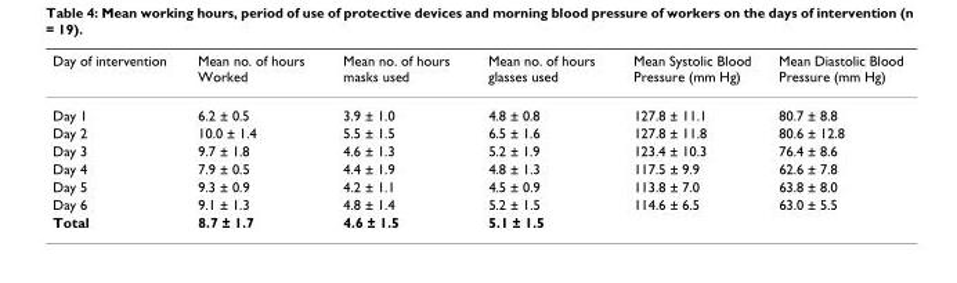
<table><thead><tr><td>Day of intervention</td><td>Mean no. of hours Worked</td><td>Mean no. of hours masks used</td><td>Mean no. of hours glasses used</td><td>Mean Systolic Blood Pressure (mm Hg)</td><td>Mean Diastolic Blood Pressure (mm Hg)</td></tr></thead><tbody><tr><td>Day 1</td><td>6.2 ± 0.5</td><td>3.9 ± 1.0</td><td>4.8 ± 0.8</td><td>127.8 ± 11.1</td><td>80.7 ± 8.8</td></tr><tr><td>Day 2</td><td>10.0 ± 1.4</td><td>5.5 ± 1.5</td><td>6.5 ± 1.6</td><td>127.8 ± 11.8</td><td>80.6 ± 12.8</td></tr><tr><td>Day 3</td><td>9.7 ± 1.8</td><td>4.6 ± 1.3</td><td>5.2 ± 1.9</td><td>123.4 ± 10.3</td><td>76.4 ± 8.6</td></tr><tr><td>Day 4</td><td>7.9 ± 0.5</td><td>4.4 ± 1.9</td><td>4.8 ± 1.3</td><td>117.5 ± 9.9</td><td>62.6 ± 7.8</td></tr><tr><td>Day 5</td><td>9.3 ± 0.9</td><td>4.2 ± 1.1</td><td>4.5 ± 0.9</td><td>113.8 ± 7.0</td><td>63.8 ± 8.0</td></tr><tr><td>Day 6</td><td>9.1 ± 1.3</td><td>4.8 ± 1.4</td><td>5.2 ± 1.5</td><td>114.6 ± 6.5</td><td>63.0 ± 5.5</td></tr><tr><td>Total</td><td>8.7 ± 1.7</td><td>4.6 ± 1.5</td><td>5.1 ± 1.5</td><td></td><td></td></tr></tbody></table>